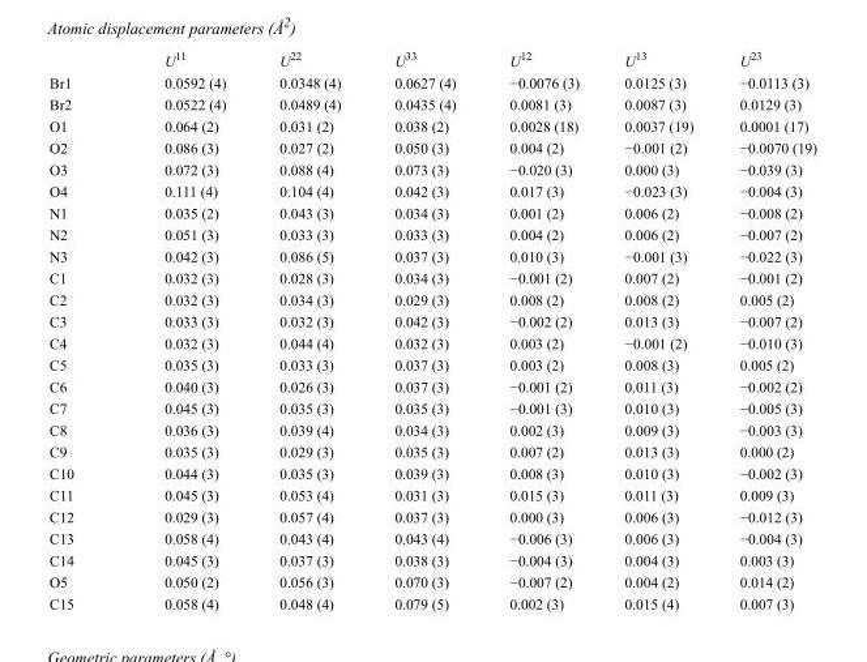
<table><thead><tr><td></td><td>U<sup>11</sup></td><td>U<sup>22</sup></td><td>U<sup>33</sup></td><td>U<sup>12</sup></td><td>U<sup>13</sup></td><td>U<sup>23</sup></td></tr></thead><tbody><tr><td>Br1</td><td>0.0592 (4)</td><td>0.0348 (4)</td><td>0.0627 (4)</td><td>−0.0076 (3)</td><td>0.0125 (3)</td><td>−0.0113 (3)</td></tr><tr><td>Br2</td><td>0.0522 (4)</td><td>0.0489 (4)</td><td>0.0435 (4)</td><td>0.0081 (3)</td><td>0.0087 (3)</td><td>0.0129 (3)</td></tr><tr><td>O1</td><td>0.064 (2)</td><td>0.031 (2)</td><td>0.038 (2)</td><td>0.0028 (18)</td><td>0.0037 (19)</td><td>0.0001 (17)</td></tr><tr><td>O2</td><td>0.086 (3)</td><td>0.027 (2)</td><td>0.050 (3)</td><td>0.004 (2)</td><td>−0.001 (2)</td><td>−0.0070 (19)</td></tr><tr><td>O3</td><td>0.072 (3)</td><td>0.088 (4)</td><td>0.073 (3)</td><td>−0.020 (3)</td><td>0.000 (3)</td><td>−0.039 (3)</td></tr><tr><td>O4</td><td>0.111 (4)</td><td>0.104 (4)</td><td>0.042 (3)</td><td>0.017 (3)</td><td>−0.023 (3)</td><td>−0.004 (3)</td></tr><tr><td>N1</td><td>0.035 (2)</td><td>0.043 (3)</td><td>0.034 (3)</td><td>0.001 (2)</td><td>0.006 (2)</td><td>−0.008 (2)</td></tr><tr><td>N2</td><td>0.051 (3)</td><td>0.033 (3)</td><td>0.033 (3)</td><td>0.004 (2)</td><td>0.006 (2)</td><td>−0.007 (2)</td></tr><tr><td>N3</td><td>0.042 (3)</td><td>0.086 (5)</td><td>0.037 (3)</td><td>0.010 (3)</td><td>−0.001 (3)</td><td>−0.022 (3)</td></tr><tr><td>C1</td><td>0.032 (3)</td><td>0.028 (3)</td><td>0.034 (3)</td><td>−0.001 (2)</td><td>0.007 (2)</td><td>−0.001 (2)</td></tr><tr><td>C2</td><td>0.032 (3)</td><td>0.034 (3)</td><td>0.029 (3)</td><td>0.008 (2)</td><td>0.008 (2)</td><td>0.005 (2)</td></tr><tr><td>C3</td><td>0.033 (3)</td><td>0.032 (3)</td><td>0.042 (3)</td><td>−0.002 (2)</td><td>0.013 (3)</td><td>−0.007 (2)</td></tr><tr><td>C4</td><td>0.032 (3)</td><td>0.044 (4)</td><td>0.032 (3)</td><td>0.003 (2)</td><td>−0.001 (2)</td><td>−0.010 (3)</td></tr><tr><td>C5</td><td>0.035 (3)</td><td>0.033 (3)</td><td>0.037 (3)</td><td>0.003 (2)</td><td>0.008 (3)</td><td>0.005 (2)</td></tr><tr><td>C6</td><td>0.040 (3)</td><td>0.026 (3)</td><td>0.037 (3)</td><td>−0.001 (2)</td><td>0.011 (3)</td><td>−0.002 (2)</td></tr><tr><td>C7</td><td>0.045 (3)</td><td>0.035 (3)</td><td>0.035 (3)</td><td>−0.001 (3)</td><td>0.010 (3)</td><td>−0.005 (3)</td></tr><tr><td>C8</td><td>0.036 (3)</td><td>0.039 (4)</td><td>0.034 (3)</td><td>0.002 (3)</td><td>0.009 (3)</td><td>−0.003 (3)</td></tr><tr><td>C9</td><td>0.035 (3)</td><td>0.029 (3)</td><td>0.035 (3)</td><td>0.007 (2)</td><td>0.013 (3)</td><td>0.000 (2)</td></tr><tr><td>C10</td><td>0.044 (3)</td><td>0.035 (3)</td><td>0.039 (3)</td><td>0.008 (3)</td><td>0.010 (3)</td><td>−0.002 (3)</td></tr><tr><td>C11</td><td>0.045 (3)</td><td>0.053 (4)</td><td>0.031 (3)</td><td>0.015 (3)</td><td>0.011 (3)</td><td>0.009 (3)</td></tr><tr><td>C12</td><td>0.029 (3)</td><td>0.057 (4)</td><td>0.037 (3)</td><td>0.000 (3)</td><td>0.006 (3)</td><td>−0.012 (3)</td></tr><tr><td>C13</td><td>0.058 (4)</td><td>0.043 (4)</td><td>0.043 (4)</td><td>−0.006 (3)</td><td>0.006 (3)</td><td>−0.004 (3)</td></tr><tr><td>C14</td><td>0.045 (3)</td><td>0.037 (3)</td><td>0.038 (3)</td><td>−0.004 (3)</td><td>0.004 (3)</td><td>0.003 (3)</td></tr><tr><td>O5</td><td>0.050 (2)</td><td>0.056 (3)</td><td>0.070 (3)</td><td>−0.007 (2)</td><td>0.004 (2)</td><td>0.014 (2)</td></tr><tr><td>C15</td><td>0.058 (4)</td><td>0.048 (4)</td><td>0.079 (5)</td><td>0.002 (3)</td><td>0.015 (4)</td><td>0.007 (3)</td></tr></tbody></table>